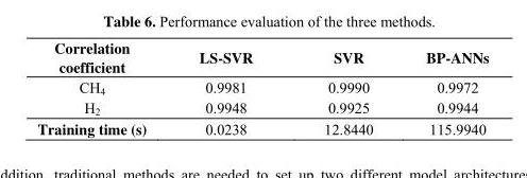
<table><thead><tr><td>Correlation coefficient</td><td>LS-SVR</td><td>SVR</td><td>BP-ANNs</td></tr></thead><tbody><tr><td>CH<sub>4</sub></td><td>0.9981</td><td>0.9990</td><td>0.9972</td></tr><tr><td>H<sub>2</sub></td><td>0.9948</td><td>0.9925</td><td>0.9944</td></tr><tr><td>Training time (s)</td><td>0.0238</td><td>12.8440</td><td>115.9940</td></tr></tbody></table>